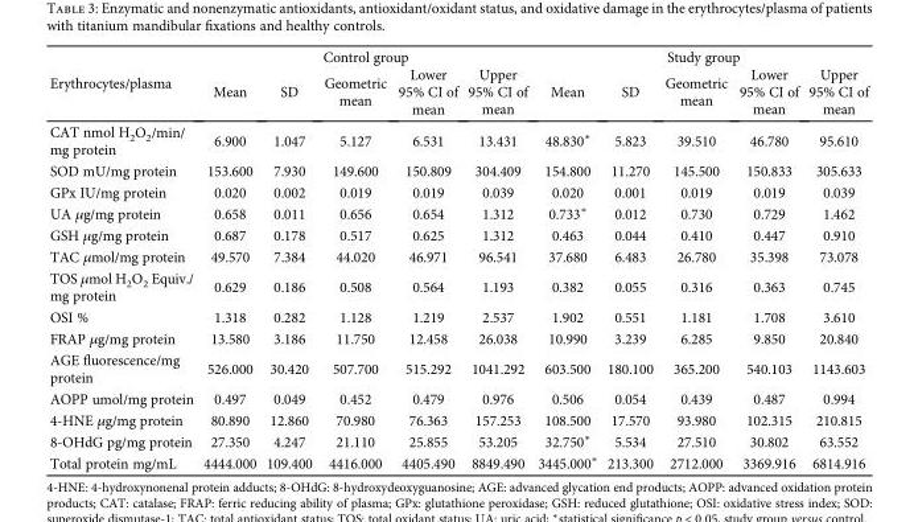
<table><thead><tr><td rowspan="2">Erythrocytes/plasma</td><td colspan="5">Control group</td><td colspan="5">Study group</td></tr><tr><td>Mean</td><td>SD</td><td>Geometric mean</td><td>Lower 95% CI of mean</td><td>Upper 95% CI of mean</td><td>Mean</td><td>SD</td><td>Geometric mean</td><td>Lower 95% CI of mean</td><td>Upper 95% CI of mean</td></tr></thead><tbody><tr><td>CAT nmol H<sub>2</sub>O<sub>2</sub>/min/ mg protein</td><td>6.900</td><td>1.047</td><td>5.127</td><td>6.531</td><td>13.431</td><td>48.830∗</td><td>5.823</td><td>39.510</td><td>46.780</td><td>95.610</td></tr><tr><td>SOD mU/mg protein</td><td>153.600</td><td>7.930</td><td>149.600</td><td>150.809</td><td>304.409</td><td>154.800</td><td>11.270</td><td>145.500</td><td>150.833</td><td>305.633</td></tr><tr><td>GPx IU/mg protein</td><td>0.020</td><td>0.002</td><td>0.019</td><td>0.019</td><td>0.039</td><td>0.020</td><td>0.001</td><td>0.019</td><td>0.019</td><td>0.039</td></tr><tr><td>UA μg/mg protein</td><td>0.658</td><td>0.011</td><td>0.656</td><td>0.654</td><td>1.312</td><td>0.733∗</td><td>0.012</td><td>0.730</td><td>0.729</td><td>1.462</td></tr><tr><td>GSH μg/mg protein</td><td>0.687</td><td>0.178</td><td>0.517</td><td>0.625</td><td>1.312</td><td>0.463</td><td>0.044</td><td>0.410</td><td>0.447</td><td>0.910</td></tr><tr><td>TAC μmol/mg protein</td><td>49.570</td><td>7.384</td><td>44.020</td><td>46.971</td><td>96.541</td><td>37.680</td><td>6.483</td><td>26.780</td><td>35.398</td><td>73.078</td></tr><tr><td>TOS μmol H<sub>2</sub>O<sub>2</sub> Equiv./ mg protein</td><td>0.629</td><td>0.186</td><td>0.508</td><td>0.564</td><td>1.193</td><td>0.382</td><td>0.055</td><td>0.316</td><td>0.363</td><td>0.745</td></tr><tr><td>OSI %</td><td>1.318</td><td>0.282</td><td>1.128</td><td>1.219</td><td>2.537</td><td>1.902</td><td>0.551</td><td>1.181</td><td>1.708</td><td>3.610</td></tr><tr><td>FRAP μg/mg protein</td><td>13.580</td><td>3.186</td><td>11.750</td><td>12.458</td><td>26.038</td><td>10.990</td><td>3.239</td><td>6.285</td><td>9.850</td><td>20.840</td></tr><tr><td>AGE fluorescence/mg protein</td><td>526.000</td><td>30.420</td><td>507.700</td><td>515.292</td><td>1041.292</td><td>603.500</td><td>180.100</td><td>365.200</td><td>540.103</td><td>1143.603</td></tr><tr><td>AOPP umol/mg protein</td><td>0.497</td><td>0.049</td><td>0.452</td><td>0.479</td><td>0.976</td><td>0.506</td><td>0.054</td><td>0.439</td><td>0.487</td><td>0.994</td></tr><tr><td>4-HNE μg/mg protein</td><td>80.890</td><td>12.860</td><td>70.980</td><td>76.363</td><td>157.253</td><td>108.500</td><td>17.570</td><td>93.980</td><td>102.315</td><td>210.815</td></tr><tr><td>8-OHdG pg/mg protein</td><td>27.350</td><td>4.247</td><td>21.110</td><td>25.855</td><td>53.205</td><td>32.750∗</td><td>5.534</td><td>27.510</td><td>30.802</td><td>63.552</td></tr><tr><td>Total protein mg/mL</td><td>4444.000</td><td>109.400</td><td>4416.000</td><td>4405.490</td><td>8849.490</td><td>3445.000∗</td><td>213.300</td><td>2712.000</td><td>3369.916</td><td>6814.916</td></tr></tbody></table>